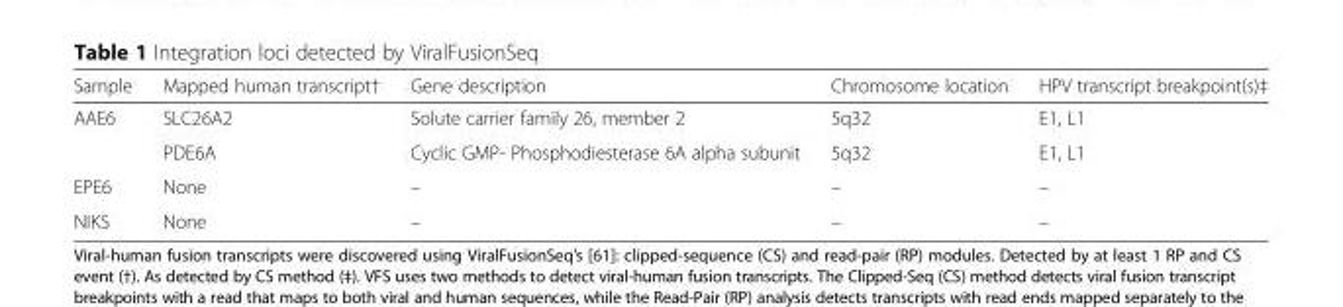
<table><thead><tr><td>Sample</td><td>Mapped human transcript†</td><td>Gene description</td><td>Chromosome location</td><td>HPV transcript breakpoint(s)‡</td></tr></thead><tbody><tr><td rowspan="2">AAE6</td><td>SLC26A2</td><td>Solute carrier family 26, member 2</td><td>5q32</td><td>E1, L1</td></tr><tr><td>PDE6A</td><td>Cyclic GMP- Phosphodiesterase 6A alpha subunit</td><td>5q32</td><td>E1, L1</td></tr><tr><td>EPE6</td><td>None</td><td>–</td><td>–</td><td>–</td></tr><tr><td>NIKS</td><td>None</td><td>–</td><td>–</td><td>–</td></tr></tbody></table>